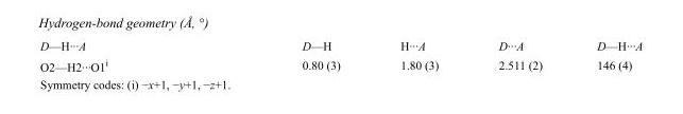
<table><tbody><tr><td>D—H···A</td><td>D—H</td><td>H···A</td><td>D···A</td><td>D—H···A</td></tr><tr><td>O2—H2···O1<sup>i</sup></td><td>0.80 (3)</td><td>1.80 (3)</td><td>2.511 (2)</td><td>146 (4)</td></tr></tbody></table>